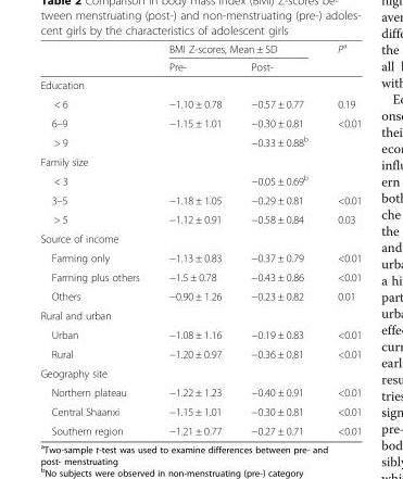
<table><thead><tr><td rowspan="2"></td><td colspan="2">BMI Z-scores, Mean ± SD</td><td rowspan="2">P<sup>a</sup></td></tr><tr><td>Pre-</td><td>Post-</td></tr></thead><tbody><tr><td colspan="4">Education</td></tr><tr><td>&lt; 6</td><td>−1.10 ± 0.78</td><td>−0.57 ± 0.77</td><td>0.19</td></tr><tr><td>6–9</td><td>−1.15 ± 1.01</td><td>−0.30 ± 0.81</td><td>&lt;0.01</td></tr><tr><td>&gt; 9</td><td></td><td>−0.33 ± 0.88<sup>b</sup></td><td></td></tr><tr><td colspan="4">Family size</td></tr><tr><td>&lt; 3</td><td></td><td>−0.05 ± 0.69<sup>b</sup></td><td></td></tr><tr><td>3–5</td><td>−1.18 ± 1.05</td><td>−0.29 ± 0.81</td><td>&lt;0.01</td></tr><tr><td>&gt; 5</td><td>−1.12 ± 0.91</td><td>−0.58 ± 0.84</td><td>0.03</td></tr><tr><td colspan="4">Source of income</td></tr><tr><td>Farming only</td><td>−1.13 ± 0.83</td><td>−0.37 ± 0.79</td><td>&lt;0.01</td></tr><tr><td>Farming plus others</td><td>−1.5 ± 0.78</td><td>−0.43 ± 0.86</td><td>&lt;0.01</td></tr><tr><td>Others</td><td>−0.90 ± 1.26</td><td>−0.23 ± 0.82</td><td>0.01</td></tr><tr><td colspan="4">Rural and urban</td></tr><tr><td>Urban</td><td>−1.08 ± 1.16</td><td>−0.19 ± 0.83</td><td>&lt;0.01</td></tr><tr><td>Rural</td><td>−1.20 ± 0.97</td><td>−0.36 ± 0.81</td><td>&lt;0.01</td></tr><tr><td colspan="4">Geography site</td></tr><tr><td>Northern plateau</td><td>−1.22 ± 1.23</td><td>−0.40 ± 0.91</td><td>&lt;0.01</td></tr><tr><td>Central Shaanxi</td><td>−1.15 ± 1.01</td><td>−0.30 ± 0.81</td><td>&lt;0.01</td></tr><tr><td>Southern region</td><td>−1.21 ± 0.77</td><td>−0.27 ± 0.71</td><td>&lt;0.01</td></tr></tbody></table>